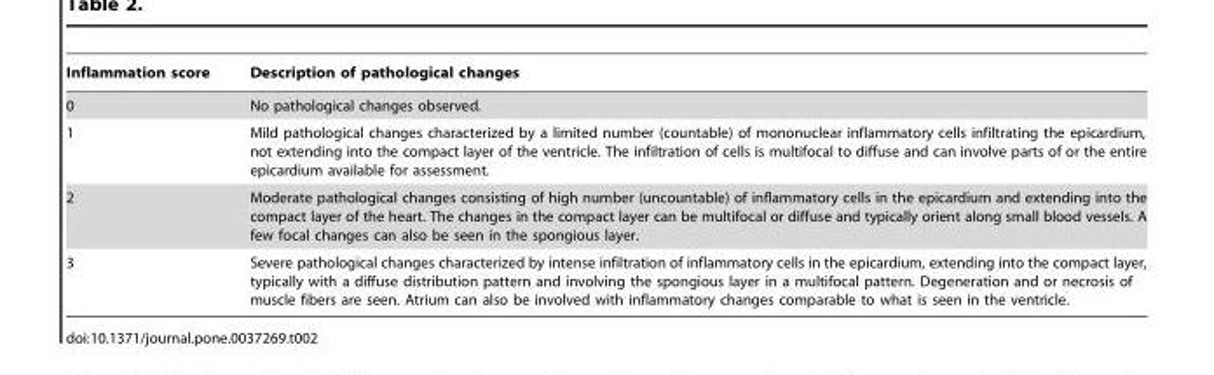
<table><thead><tr><td>Inflammation score</td><td>Description of pathological changes</td></tr></thead><tbody><tr><td>0</td><td>No pathological changes observed.</td></tr><tr><td>1</td><td>Mild pathological changes characterized by a limited number (countable) of mononuclear inflammatory cells infiltrating the epicardium, not extending into the compact layer of the ventricle. The infiltration of cells is multifocal to diffuse and can involve parts of or the entire epicardium available for assessment.</td></tr><tr><td>2</td><td>Moderate pathological changes consisting of high number (uncountable) of inflammatory cells in the epicardium and extending into the compact layer of the heart. The changes in the compact layer can be multifocal or diffuse and typically orient along small blood vessels. A few focal changes can also be seen in the spongious layer.</td></tr><tr><td>3</td><td>Severe pathological changes characterized by intense infiltration of inflammatory cells in the epicardium, extending into the compact layer, typically with a diffuse distribution pattern and involving the spongious layer in a multifocal pattern. Degeneration and or necrosis of muscle fibers are seen. Atrium can also be involved with inflammatory changes comparable to what is seen in the ventricle.</td></tr></tbody></table>